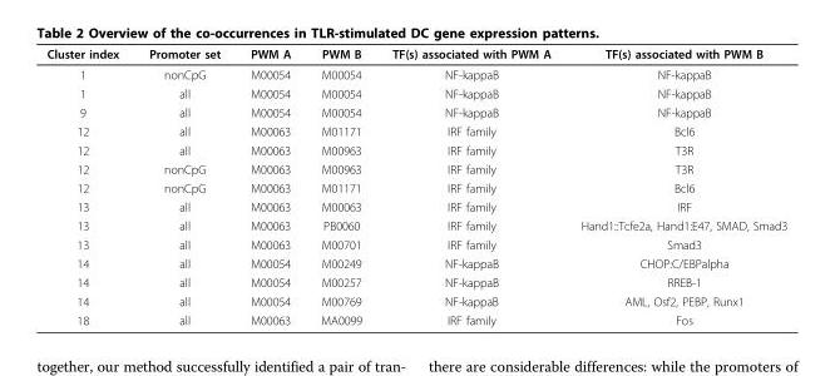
<table><thead><tr><td>Cluster index</td><td>Promoter set</td><td>PWM A</td><td>PWM B</td><td>TF(s) associated with PWM A</td><td>TF(s) associated with PWM B</td></tr></thead><tbody><tr><td>1</td><td>nonCpG</td><td>M00054</td><td>M00054</td><td>NF-kappaB</td><td>NF-kappaB</td></tr><tr><td>1</td><td>all</td><td>M00054</td><td>M00054</td><td>NF-kappaB</td><td>NF-kappaB</td></tr><tr><td>9</td><td>all</td><td>M00054</td><td>M00054</td><td>NF-kappaB</td><td>NF-kappaB</td></tr><tr><td>12</td><td>all</td><td>M00063</td><td>M01171</td><td>IRF family</td><td>Bcl6</td></tr><tr><td>12</td><td>all</td><td>M00063</td><td>M00963</td><td>IRF family</td><td>T3R</td></tr><tr><td>12</td><td>nonCpG</td><td>M00063</td><td>M00963</td><td>IRF family</td><td>T3R</td></tr><tr><td>12</td><td>nonCpG</td><td>M00063</td><td>M01171</td><td>IRF family</td><td>Bcl6</td></tr><tr><td>13</td><td>all</td><td>M00063</td><td>M00063</td><td>IRF family</td><td>IRF</td></tr><tr><td>13</td><td>all</td><td>M00063</td><td>PB0060</td><td>IRF family</td><td>Hand1::Tcfe2a, Hand1:E47, SMAD, Smad3</td></tr><tr><td>13</td><td>all</td><td>M00063</td><td>M00701</td><td>IRF family</td><td>Smad3</td></tr><tr><td>14</td><td>all</td><td>M00054</td><td>M00249</td><td>NF-kappaB</td><td>CHOP:C/EBPalpha</td></tr><tr><td>14</td><td>all</td><td>M00054</td><td>M00257</td><td>NF-kappaB</td><td>RREB-1</td></tr><tr><td>14</td><td>all</td><td>M00054</td><td>M00769</td><td>NF-kappaB</td><td>AML, Osf2, PEBP, Runx1</td></tr><tr><td>18</td><td>all</td><td>M00063</td><td>MA0099</td><td>IRF family</td><td>Fos</td></tr></tbody></table>